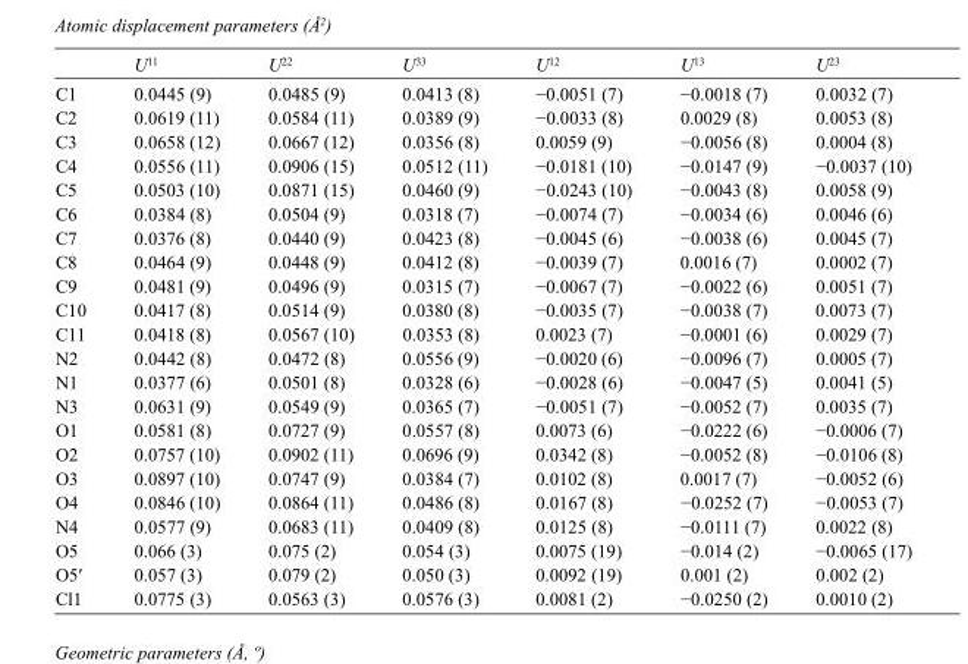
<table><thead><tr><td></td><td>U<sup>11</sup></td><td>U<sup>22</sup></td><td>U<sup>33</sup></td><td>U<sup>12</sup></td><td>U<sup>13</sup></td><td>U<sup>23</sup></td></tr></thead><tbody><tr><td>C1</td><td>0.0445 (9)</td><td>0.0485 (9)</td><td>0.0413 (8)</td><td>−0.0051 (7)</td><td>−0.0018 (7)</td><td>0.0032 (7)</td></tr><tr><td>C2</td><td>0.0619 (11)</td><td>0.0584 (11)</td><td>0.0389 (9)</td><td>−0.0033 (8)</td><td>0.0029 (8)</td><td>0.0053 (8)</td></tr><tr><td>C3</td><td>0.0658 (12)</td><td>0.0667 (12)</td><td>0.0356 (8)</td><td>0.0059 (9)</td><td>−0.0056 (8)</td><td>0.0004 (8)</td></tr><tr><td>C4</td><td>0.0556 (11)</td><td>0.0906 (15)</td><td>0.0512 (11)</td><td>−0.0181 (10)</td><td>−0.0147 (9)</td><td>−0.0037 (10)</td></tr><tr><td>C5</td><td>0.0503 (10)</td><td>0.0871 (15)</td><td>0.0460 (9)</td><td>−0.0243 (10)</td><td>−0.0043 (8)</td><td>0.0058 (9)</td></tr><tr><td>C6</td><td>0.0384 (8)</td><td>0.0504 (9)</td><td>0.0318 (7)</td><td>−0.0074 (7)</td><td>−0.0034 (6)</td><td>0.0046 (6)</td></tr><tr><td>C7</td><td>0.0376 (8)</td><td>0.0440 (9)</td><td>0.0423 (8)</td><td>−0.0045 (6)</td><td>−0.0038 (6)</td><td>0.0045 (7)</td></tr><tr><td>C8</td><td>0.0464 (9)</td><td>0.0448 (9)</td><td>0.0412 (8)</td><td>−0.0039 (7)</td><td>0.0016 (7)</td><td>0.0002 (7)</td></tr><tr><td>C9</td><td>0.0481 (9)</td><td>0.0496 (9)</td><td>0.0315 (7)</td><td>−0.0067 (7)</td><td>−0.0022 (6)</td><td>0.0051 (7)</td></tr><tr><td>C10</td><td>0.0417 (8)</td><td>0.0514 (9)</td><td>0.0380 (8)</td><td>−0.0035 (7)</td><td>−0.0038 (7)</td><td>0.0073 (7)</td></tr><tr><td>C11</td><td>0.0418 (8)</td><td>0.0567 (10)</td><td>0.0353 (8)</td><td>0.0023 (7)</td><td>−0.0001 (6)</td><td>0.0029 (7)</td></tr><tr><td>N2</td><td>0.0442 (8)</td><td>0.0472 (8)</td><td>0.0556 (9)</td><td>−0.0020 (6)</td><td>−0.0096 (7)</td><td>0.0005 (7)</td></tr><tr><td>N1</td><td>0.0377 (6)</td><td>0.0501 (8)</td><td>0.0328 (6)</td><td>−0.0028 (6)</td><td>−0.0047 (5)</td><td>0.0041 (5)</td></tr><tr><td>N3</td><td>0.0631 (9)</td><td>0.0549 (9)</td><td>0.0365 (7)</td><td>−0.0051 (7)</td><td>−0.0052 (7)</td><td>0.0035 (7)</td></tr><tr><td>O1</td><td>0.0581 (8)</td><td>0.0727 (9)</td><td>0.0557 (8)</td><td>0.0073 (6)</td><td>−0.0222 (6)</td><td>−0.0006 (7)</td></tr><tr><td>O2</td><td>0.0757 (10)</td><td>0.0902 (11)</td><td>0.0696 (9)</td><td>0.0342 (8)</td><td>−0.0052 (8)</td><td>−0.0106 (8)</td></tr><tr><td>O3</td><td>0.0897 (10)</td><td>0.0747 (9)</td><td>0.0384 (7)</td><td>0.0102 (8)</td><td>0.0017 (7)</td><td>−0.0052 (6)</td></tr><tr><td>O4</td><td>0.0846 (10)</td><td>0.0864 (11)</td><td>0.0486 (8)</td><td>0.0167 (8)</td><td>−0.0252 (7)</td><td>−0.0053 (7)</td></tr><tr><td>N4</td><td>0.0577 (9)</td><td>0.0683 (11)</td><td>0.0409 (8)</td><td>0.0125 (8)</td><td>−0.0111 (7)</td><td>0.0022 (8)</td></tr><tr><td>O5</td><td>0.066 (3)</td><td>0.075 (2)</td><td>0.054 (3)</td><td>0.0075 (19)</td><td>−0.014 (2)</td><td>−0.0065 (17)</td></tr><tr><td>O5′</td><td>0.057 (3)</td><td>0.079 (2)</td><td>0.050 (3)</td><td>0.0092 (19)</td><td>0.001 (2)</td><td>0.002 (2)</td></tr><tr><td>Cl1</td><td>0.0775 (3)</td><td>0.0563 (3)</td><td>0.0576 (3)</td><td>0.0081 (2)</td><td>−0.0250 (2)</td><td>0.0010 (2)</td></tr></tbody></table>